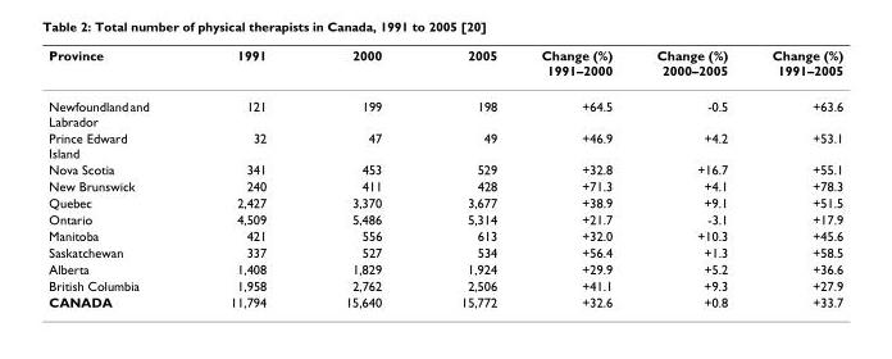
<table><thead><tr><td>Province</td><td>1991</td><td>2000</td><td>2005</td><td>Change (%) 1991–2000</td><td>Change (%) 2000–2005</td><td>Change (%) 1991–2005</td></tr></thead><tbody><tr><td>Newfoundland and Labrador</td><td>121</td><td>199</td><td>198</td><td>+64.5</td><td>-0.5</td><td>+63.6</td></tr><tr><td>Prince Edward Island</td><td>32</td><td>47</td><td>49</td><td>+46.9</td><td>+4.2</td><td>+53.1</td></tr><tr><td>Nova Scotia</td><td>341</td><td>453</td><td>529</td><td>+32.8</td><td>+16.7</td><td>+55.1</td></tr><tr><td>New Brunswick</td><td>240</td><td>411</td><td>428</td><td>+71.3</td><td>+4.1</td><td>+78.3</td></tr><tr><td>Quebec</td><td>2,427</td><td>3,370</td><td>3,677</td><td>+38.9</td><td>+9.1</td><td>+51.5</td></tr><tr><td>Ontario</td><td>4,509</td><td>5,486</td><td>5,314</td><td>+21.7</td><td>-3.1</td><td>+17.9</td></tr><tr><td>Manitoba</td><td>421</td><td>556</td><td>613</td><td>+32.0</td><td>+10.3</td><td>+45.6</td></tr><tr><td>Saskatchewan</td><td>337</td><td>527</td><td>534</td><td>+56.4</td><td>+1.3</td><td>+58.5</td></tr><tr><td>Alberta</td><td>1,408</td><td>1,829</td><td>1,924</td><td>+29.9</td><td>+5.2</td><td>+36.6</td></tr><tr><td>British Columbia</td><td>1,958</td><td>2,762</td><td>2,506</td><td>+41.1</td><td>+9.3</td><td>+27.9</td></tr><tr><td>CANADA</td><td>11,794</td><td>15,640</td><td>15,772</td><td>+32.6</td><td>+0.8</td><td>+33.7</td></tr></tbody></table>